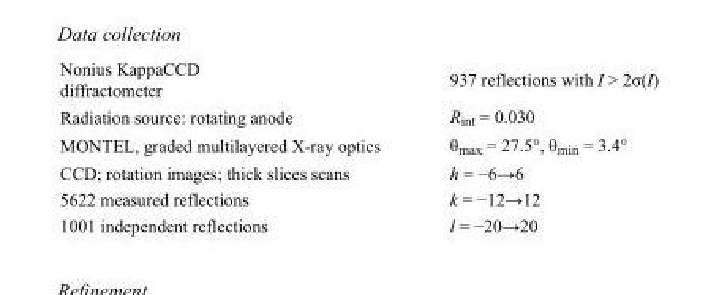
<table><tbody><tr><td>Nonius KappaCCD diffractometer</td><td>937 reflections with I &gt; 2σ(I)</td></tr><tr><td>Radiation source: rotating anode</td><td>R<sub>int</sub> = 0.030</td></tr><tr><td>MONTEL, graded multilayered X-ray optics</td><td>θ<sub>max</sub> = 27.5°, θ<sub>min</sub> = 3.4°</td></tr><tr><td>CCD; rotation images; thick slices scans</td><td>h = −6→6</td></tr><tr><td>5622 measured reflections</td><td>k = −12→12</td></tr><tr><td>1001 independent reflections</td><td>l = −20→20</td></tr></tbody></table>